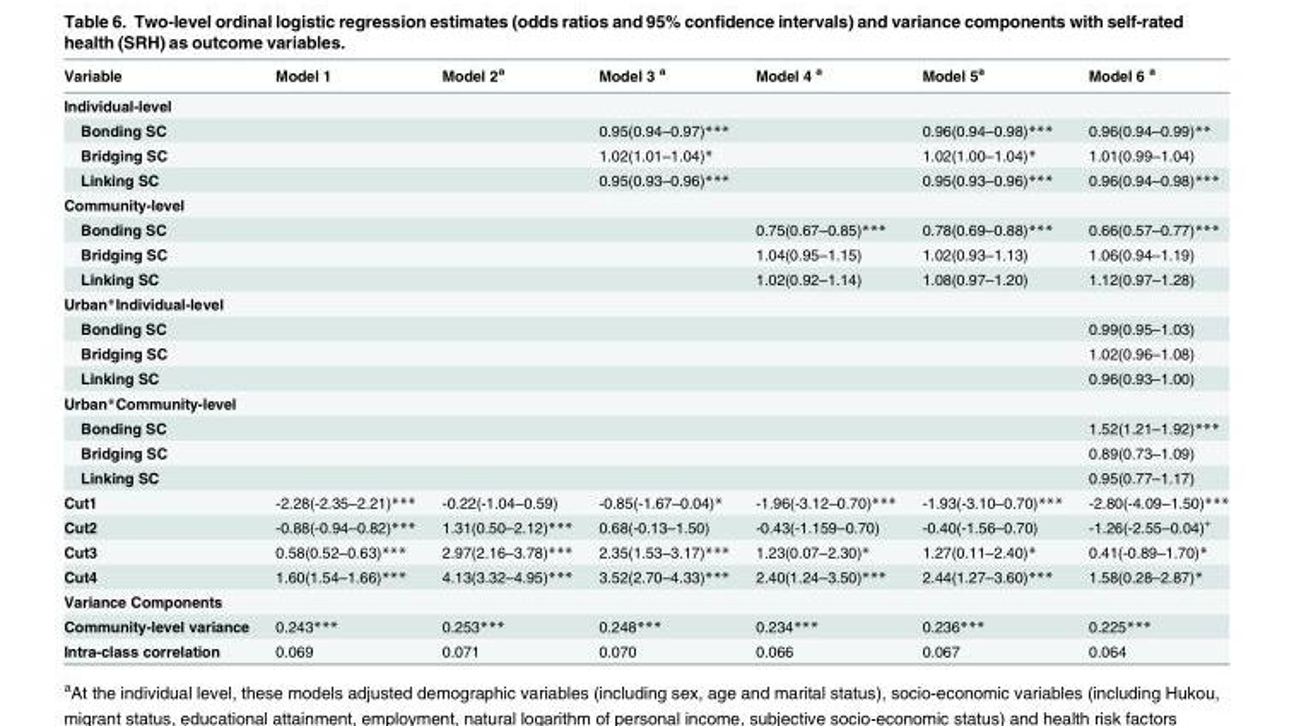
<table><thead><tr><td>Variable</td><td>Model 1</td><td>Model 2<sup>a</sup></td><td>Model 3 <sup>a</sup></td><td>Model 4 <sup>a</sup></td><td>Model 5<sup>a</sup></td><td>Model 6 <sup>a</sup></td></tr></thead><tbody><tr><td colspan="7">Individual-level</td></tr><tr><td>Bonding SC</td><td></td><td></td><td>0.95(0.94–0.97)***</td><td></td><td>0.96(0.94–0.98)***</td><td>0.96(0.94–0.99)**</td></tr><tr><td>Bridging SC</td><td></td><td></td><td>1.02(1.01–1.04)*</td><td></td><td>1.02(1.00–1.04)*</td><td>1.01(0.99–1.04)</td></tr><tr><td>Linking SC</td><td></td><td></td><td>0.95(0.93–0.96)***</td><td></td><td>0.95(0.93–0.96)***</td><td>0.96(0.94–0.98)***</td></tr><tr><td colspan="7">Community-level</td></tr><tr><td>Bonding SC</td><td></td><td></td><td></td><td>0.75(0.67–0.85)***</td><td>0.78(0.69–0.88)***</td><td>0.66(0.57–0.77)***</td></tr><tr><td>Bridging SC</td><td></td><td></td><td></td><td>1.04(0.95–1.15)</td><td>1.02(0.93–1.13)</td><td>1.06(0.94–1.19)</td></tr><tr><td>Linking SC</td><td></td><td></td><td></td><td>1.02(0.92–1.14)</td><td>1.08(0.97–1.20)</td><td>1.12(0.97–1.28)</td></tr><tr><td colspan="7">Urban*Individual-level</td></tr><tr><td>Bonding SC</td><td></td><td></td><td></td><td></td><td></td><td>0.99(0.95–1.03)</td></tr><tr><td>Bridging SC</td><td></td><td></td><td></td><td></td><td></td><td>1.02(0.96–1.08)</td></tr><tr><td>Linking SC</td><td></td><td></td><td></td><td></td><td></td><td>0.96(0.93–1.00)</td></tr><tr><td colspan="7">Urban*Community-level</td></tr><tr><td>Bonding SC</td><td></td><td></td><td></td><td></td><td></td><td>1.52(1.21–1.92)***</td></tr><tr><td>Bridging SC</td><td></td><td></td><td></td><td></td><td></td><td>0.89(0.73–1.09)</td></tr><tr><td>Linking SC</td><td></td><td></td><td></td><td></td><td></td><td>0.95(0.77–1.17)</td></tr><tr><td>Cut1</td><td>-2.28(-2.35–2.21)***</td><td>-0.22(-1.04–0.59)</td><td>-0.85(-1.67–0.04)*</td><td>-1.96(-3.12–0.70)***</td><td>-1.93(-3.10–0.70)***</td><td>-2.80(-4.09–1.50)***</td></tr><tr><td>Cut2</td><td>-0.88(-0.94–0.82)***</td><td>1.31(0.50–2.12)***</td><td>0.68(-0.13–1.50)</td><td>-0.43(-1.159–0.70)</td><td>-0.40(-1.56–0.70)</td><td>-1.26(-2.55–0.04)<sup>+</sup></td></tr><tr><td>Cut3</td><td>0.58(0.52–0.63)***</td><td>2.97(2.16–3.78)***</td><td>2.35(1.53–3.17)***</td><td>1.23(0.07–2.30)*</td><td>1.27(0.11–2.40)*</td><td>0.41(-0.89–1.70)*</td></tr><tr><td>Cut4</td><td>1.60(1.54–1.66)***</td><td>4.13(3.32–4.95)***</td><td>3.52(2.70–4.33)***</td><td>2.40(1.24–3.50)***</td><td>2.44(1.27–3.60)***</td><td>1.58(0.28–2.87)*</td></tr><tr><td colspan="7">Variance Components</td></tr><tr><td>Community-level variance</td><td>0.243***</td><td>0.253***</td><td>0.248***</td><td>0.234***</td><td>0.236***</td><td>0.225***</td></tr><tr><td>Intra-class correlation</td><td>0.069</td><td>0.071</td><td>0.070</td><td>0.066</td><td>0.067</td><td>0.064</td></tr></tbody></table>